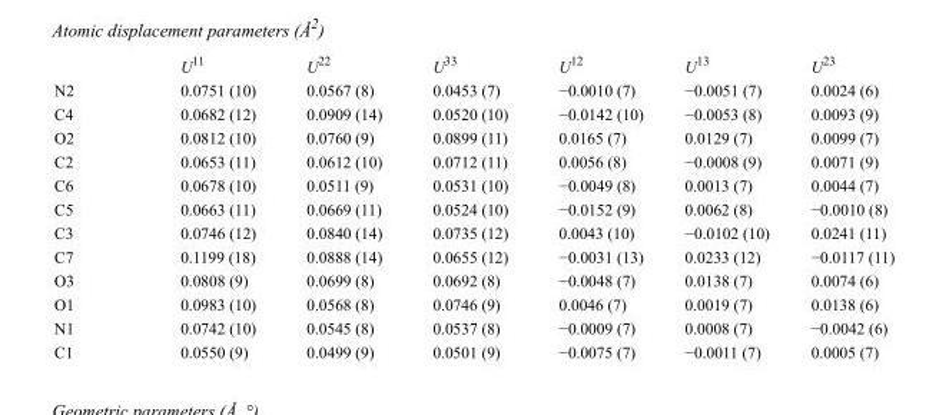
<table><thead><tr><td></td><td>U<sup>11</sup></td><td>U<sup>22</sup></td><td>U<sup>33</sup></td><td>U<sup>12</sup></td><td>U<sup>13</sup></td><td>U<sup>23</sup></td></tr></thead><tbody><tr><td>N2</td><td>0.0751 (10)</td><td>0.0567 (8)</td><td>0.0453 (7)</td><td>−0.0010 (7)</td><td>−0.0051 (7)</td><td>0.0024 (6)</td></tr><tr><td>C4</td><td>0.0682 (12)</td><td>0.0909 (14)</td><td>0.0520 (10)</td><td>−0.0142 (10)</td><td>−0.0053 (8)</td><td>0.0093 (9)</td></tr><tr><td>O2</td><td>0.0812 (10)</td><td>0.0760 (9)</td><td>0.0899 (11)</td><td>0.0165 (7)</td><td>0.0129 (7)</td><td>0.0099 (7)</td></tr><tr><td>C2</td><td>0.0653 (11)</td><td>0.0612 (10)</td><td>0.0712 (11)</td><td>0.0056 (8)</td><td>−0.0008 (9)</td><td>0.0071 (9)</td></tr><tr><td>C6</td><td>0.0678 (10)</td><td>0.0511 (9)</td><td>0.0531 (10)</td><td>−0.0049 (8)</td><td>0.0013 (7)</td><td>0.0044 (7)</td></tr><tr><td>C5</td><td>0.0663 (11)</td><td>0.0669 (11)</td><td>0.0524 (10)</td><td>−0.0152 (9)</td><td>0.0062 (8)</td><td>−0.0010 (8)</td></tr><tr><td>C3</td><td>0.0746 (12)</td><td>0.0840 (14)</td><td>0.0735 (12)</td><td>0.0043 (10)</td><td>−0.0102 (10)</td><td>0.0241 (11)</td></tr><tr><td>C7</td><td>0.1199 (18)</td><td>0.0888 (14)</td><td>0.0655 (12)</td><td>−0.0031 (13)</td><td>0.0233 (12)</td><td>−0.0117 (11)</td></tr><tr><td>O3</td><td>0.0808 (9)</td><td>0.0699 (8)</td><td>0.0692 (8)</td><td>−0.0048 (7)</td><td>0.0138 (7)</td><td>0.0074 (6)</td></tr><tr><td>O1</td><td>0.0983 (10)</td><td>0.0568 (8)</td><td>0.0746 (9)</td><td>0.0046 (7)</td><td>0.0019 (7)</td><td>0.0138 (6)</td></tr><tr><td>N1</td><td>0.0742 (10)</td><td>0.0545 (8)</td><td>0.0537 (8)</td><td>−0.0009 (7)</td><td>0.0008 (7)</td><td>−0.0042 (6)</td></tr><tr><td>C1</td><td>0.0550 (9)</td><td>0.0499 (9)</td><td>0.0501 (9)</td><td>−0.0075 (7)</td><td>−0.0011 (7)</td><td>0.0005 (7)</td></tr></tbody></table>